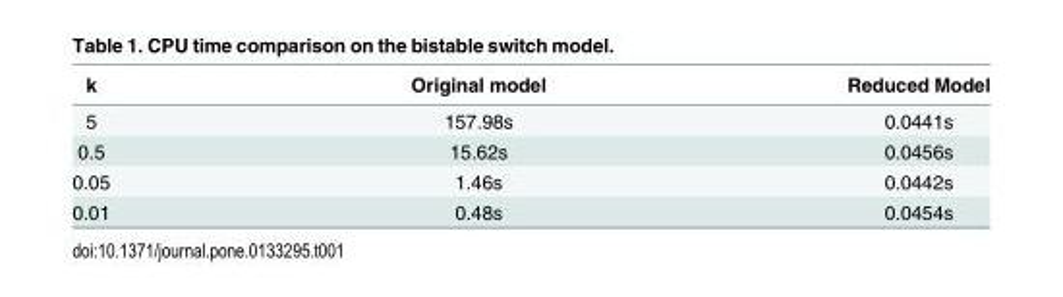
<table><thead><tr><td>k</td><td>Original model</td><td>Reduced Model</td></tr></thead><tbody><tr><td>5</td><td>157.98s</td><td>0.0441s</td></tr><tr><td>0.5</td><td>15.62s</td><td>0.0456s</td></tr><tr><td>0.05</td><td>1.46s</td><td>0.0442s</td></tr><tr><td>0.01</td><td>0.48s</td><td>0.0454s</td></tr></tbody></table>